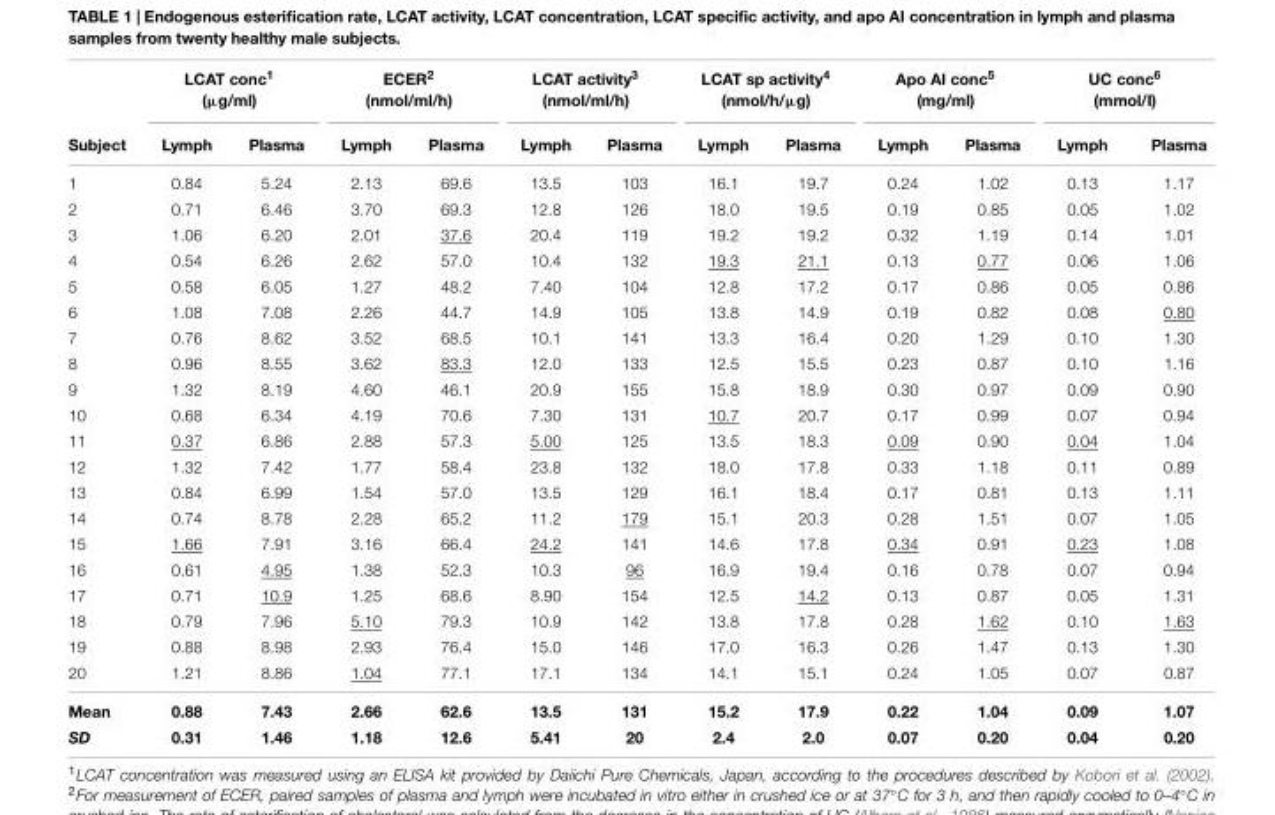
<table><thead><tr><td rowspan="2">Subject</td><td colspan="2">LCAT conc<sup>1</sup> (µg/ml)</td><td colspan="2">ECER<sup>2</sup> (nmol/ml/h)</td><td colspan="2">LCAT activity<sup>3</sup> (nmol/ml/h)</td><td colspan="2">LCAT sp activity<sup>4</sup> (nmol/h/µg)</td><td colspan="2">Apo AI conc<sup>5</sup> (mg/ml)</td><td colspan="2">UC conc<sup>6</sup> (mmol/I)</td></tr><tr><td>Lymph</td><td>Plasma</td><td>Lymph</td><td>Plasma</td><td>Lymph</td><td>Plasma</td><td>Lymph</td><td>Plasma</td><td>Lymph</td><td>Plasma</td><td>Lymph</td><td>Plasma</td></tr></thead><tbody><tr><td>1</td><td>0.84</td><td>5.24</td><td>2.13</td><td>69.6</td><td>13.5</td><td>103</td><td>16.1</td><td>19.7</td><td>0.24</td><td>1.02</td><td>0.13</td><td>1.17</td></tr><tr><td>2</td><td>0.71</td><td>6.46</td><td>3.70</td><td>69.3</td><td>12.8</td><td>126</td><td>18.0</td><td>19.5</td><td>0.19</td><td>0.85</td><td>0.05</td><td>1.02</td></tr><tr><td>3</td><td>1.06</td><td>6.20</td><td>2.01</td><td>37.6</td><td>20.4</td><td>119</td><td>19.2</td><td>19.2</td><td>0.32</td><td>1.19</td><td>0.14</td><td>1.01</td></tr><tr><td>4</td><td>0.54</td><td>6.26</td><td>2.62</td><td>57.0</td><td>10.4</td><td>132</td><td>19.3</td><td>21.1</td><td>0.13</td><td>0.77</td><td>0.06</td><td>1.06</td></tr><tr><td>5</td><td>0.58</td><td>6.05</td><td>1.27</td><td>48.2</td><td>7.40</td><td>104</td><td>12.8</td><td>17.2</td><td>0.17</td><td>0.86</td><td>0.05</td><td>0.86</td></tr><tr><td>6</td><td>1.08</td><td>7.08</td><td>2.26</td><td>44.7</td><td>14.9</td><td>105</td><td>13.8</td><td>14.9</td><td>0.19</td><td>0.82</td><td>0.08</td><td>0.80</td></tr><tr><td>7</td><td>0.76</td><td>8.62</td><td>3.52</td><td>68.5</td><td>10.1</td><td>141</td><td>13.3</td><td>16.4</td><td>0.20</td><td>1.29</td><td>0.10</td><td>1.30</td></tr><tr><td>8</td><td>0.96</td><td>8.55</td><td>3.62</td><td>83.3</td><td>12.0</td><td>133</td><td>12.5</td><td>15.5</td><td>0.23</td><td>0.87</td><td>0.10</td><td>1.16</td></tr><tr><td>9</td><td>1.32</td><td>8.19</td><td>4.60</td><td>46.1</td><td>20.9</td><td>155</td><td>15.8</td><td>18.9</td><td>0.30</td><td>0.97</td><td>0.09</td><td>0.90</td></tr><tr><td>10</td><td>0.68</td><td>6.34</td><td>4.19</td><td>70.6</td><td>7.30</td><td>131</td><td>10.7</td><td>20.7</td><td>0.17</td><td>0.99</td><td>0.07</td><td>0.94</td></tr><tr><td>11</td><td>0.37</td><td>6.86</td><td>2.88</td><td>57.3</td><td>5.00</td><td>125</td><td>13.5</td><td>18.3</td><td>0.09</td><td>0.90</td><td>0.04</td><td>1.04</td></tr><tr><td>12</td><td>1.32</td><td>7.42</td><td>1.77</td><td>58.4</td><td>23.8</td><td>132</td><td>18.0</td><td>17.8</td><td>0.33</td><td>1.18</td><td>0.11</td><td>0.89</td></tr><tr><td>13</td><td>0.84</td><td>6.99</td><td>1.54</td><td>57.0</td><td>13.5</td><td>129</td><td>16.1</td><td>18.4</td><td>0.17</td><td>0.81</td><td>0.13</td><td>1.11</td></tr><tr><td>14</td><td>0.74</td><td>8.78</td><td>2.28</td><td>65.2</td><td>11.2</td><td>179</td><td>15.1</td><td>20.3</td><td>0.28</td><td>1.51</td><td>0.07</td><td>1.05</td></tr><tr><td>15</td><td>1.66</td><td>7.91</td><td>3.16</td><td>66.4</td><td>24.2</td><td>141</td><td>14.6</td><td>17.8</td><td>0.34</td><td>0.91</td><td>0.23</td><td>1.08</td></tr><tr><td>16</td><td>0.61</td><td>4.95</td><td>1.38</td><td>52.3</td><td>10.3</td><td>96</td><td>16.9</td><td>19.4</td><td>0.16</td><td>0.78</td><td>0.07</td><td>0.94</td></tr><tr><td>17</td><td>0.71</td><td>10.9</td><td>1.25</td><td>68.6</td><td>8.90</td><td>154</td><td>12.5</td><td>14.2</td><td>0.13</td><td>0.87</td><td>0.05</td><td>1.31</td></tr><tr><td>18</td><td>0.79</td><td>7.96</td><td>5.10</td><td>79.3</td><td>10.9</td><td>142</td><td>13.8</td><td>17.8</td><td>0.28</td><td>1.62</td><td>0.10</td><td>1.63</td></tr><tr><td>19</td><td>0.88</td><td>8.98</td><td>2.93</td><td>76.4</td><td>15.0</td><td>146</td><td>17.0</td><td>16.3</td><td>0.26</td><td>1.47</td><td>0.13</td><td>1.30</td></tr><tr><td>20</td><td>1.21</td><td>8.86</td><td>1.04</td><td>77.1</td><td>17.1</td><td>134</td><td>14.1</td><td>15.1</td><td>0.24</td><td>1.05</td><td>0.07</td><td>0.87</td></tr><tr><td>Mean</td><td>0.88</td><td>7.43</td><td>2.66</td><td>62.6</td><td>13.5</td><td>131</td><td>15.2</td><td>17.9</td><td>0.22</td><td>1.04</td><td>0.09</td><td>1.07</td></tr><tr><td>SD</td><td>0.31</td><td>1.46</td><td>1.18</td><td>12.6</td><td>5.41</td><td>20</td><td>2.4</td><td>2.0</td><td>0.07</td><td>0.20</td><td>0.04</td><td>0.20</td></tr></tbody></table>